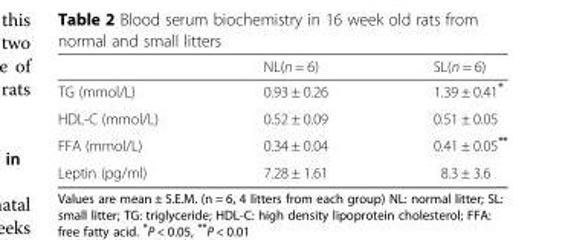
<table><thead><tr><td></td><td>NL(n = 6)</td><td>SL(n = 6)</td></tr></thead><tbody><tr><td>TG (mmol/L)</td><td>0.93 ± 0.26</td><td>1.39 ± 0.41*</td></tr><tr><td>HDL-C (mmol/L)</td><td>0.52 ± 0.09</td><td>0.51 ± 0.05</td></tr><tr><td>FFA (mmol/L)</td><td>0.34 ± 0.04</td><td>0.41 ± 0.05**</td></tr><tr><td>Leptin (pg/ml)</td><td>7.28 ± 1.61</td><td>8.3 ± 3.6</td></tr></tbody></table>